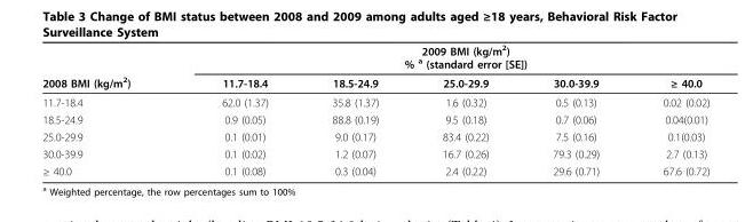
<table><thead><tr><td rowspan="2">2008 BMI (kg/m<sup>2</sup>)</td><td colspan="5">2009 BMI (kg/m<sup>2</sup>) % <sup>a</sup> (standard error [SE])</td></tr><tr><td>11.7-18.4</td><td>18.5-24.9</td><td>25.0-29.9</td><td>30.0-39.9</td><td>≥ 40.0</td></tr></thead><tbody><tr><td>11.7-18.4</td><td>62.0 (1.37)</td><td>35.8 (1.37)</td><td>1.6 (0.32)</td><td>0.5 (0.13)</td><td>0.02 (0.02)</td></tr><tr><td>18.5-24.9</td><td>0.9 (0.05)</td><td>88.8 (0.19)</td><td>9.5 (0.18)</td><td>0.7 (0.06)</td><td>0.04(0.01)</td></tr><tr><td>25.0-29.9</td><td>0.1 (0.01)</td><td>9.0 (0.17)</td><td>83.4 (0.22)</td><td>7.5 (0.16)</td><td>0.1(0.03)</td></tr><tr><td>30.0-39.9</td><td>0.1 (0.02)</td><td>1.2 (0.07)</td><td>16.7 (0.26)</td><td>79.3 (0.29)</td><td>2.7 (0.13)</td></tr><tr><td>≥ 40.0</td><td>0.1 (0.08)</td><td>0.3 (0.04)</td><td>2.4 (0.22)</td><td>29.6 (0.71)</td><td>67.6 (0.72)</td></tr></tbody></table>